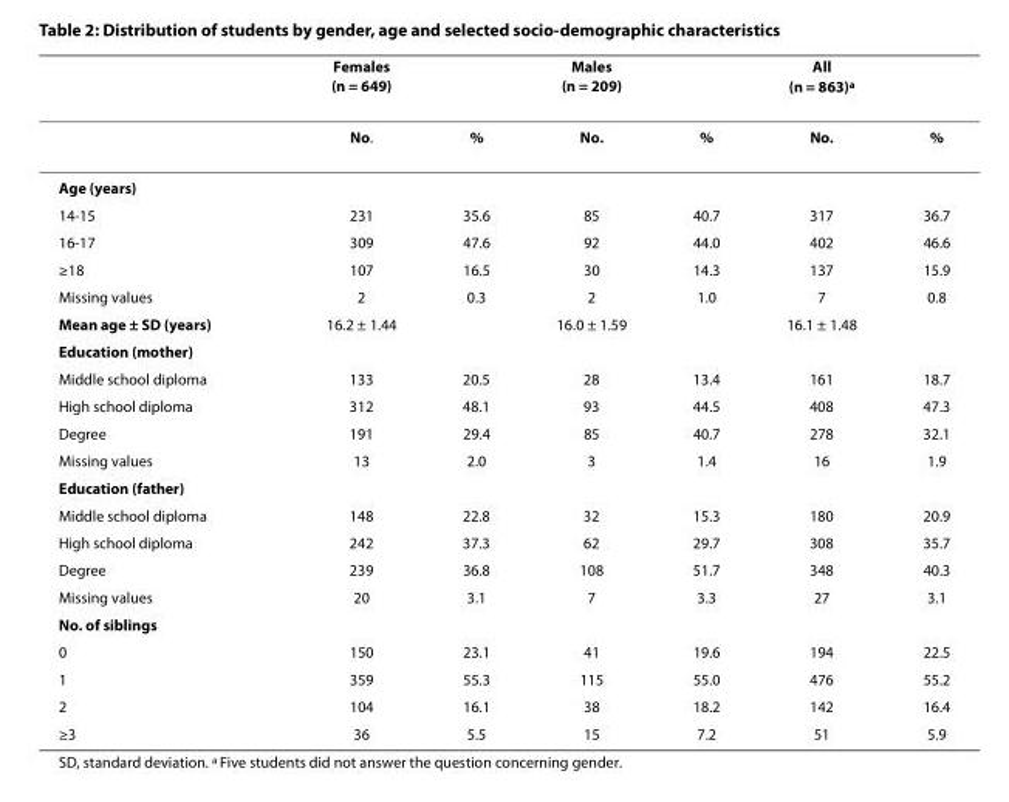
<table><thead><tr><td></td><td>Females (n = 649)</td><td></td><td>Males (n = 209)</td><td></td><td>All (n = 863)<sup>a</sup></td><td></td></tr></thead><tbody><tr><td></td><td>No.</td><td>%</td><td>No.</td><td>%</td><td>No.</td><td>%</td></tr><tr><td colspan="7">Age (years)</td></tr><tr><td>14-15</td><td>231</td><td>35.6</td><td>85</td><td>40.7</td><td>317</td><td>36.7</td></tr><tr><td>16-17</td><td>309</td><td>47.6</td><td>92</td><td>44.0</td><td>402</td><td>46.6</td></tr><tr><td>≥18</td><td>107</td><td>16.5</td><td>30</td><td>14.3</td><td>137</td><td>15.9</td></tr><tr><td>Missing values</td><td>2</td><td>0.3</td><td>2</td><td>1.0</td><td>7</td><td>0.8</td></tr><tr><td>Mean age ± SD (years)</td><td>16.2 ± 1.44</td><td></td><td>16.0 ± 1.59</td><td></td><td>16.1 ± 1.48</td><td></td></tr><tr><td colspan="7">Education (mother)</td></tr><tr><td>Middle school diploma</td><td>133</td><td>20.5</td><td>28</td><td>13.4</td><td>161</td><td>18.7</td></tr><tr><td>High school diploma</td><td>312</td><td>48.1</td><td>93</td><td>44.5</td><td>408</td><td>47.3</td></tr><tr><td>Degree</td><td>191</td><td>29.4</td><td>85</td><td>40.7</td><td>278</td><td>32.1</td></tr><tr><td>Missing values</td><td>13</td><td>2.0</td><td>3</td><td>1.4</td><td>16</td><td>1.9</td></tr><tr><td colspan="7">Education (father)</td></tr><tr><td>Middle school diploma</td><td>148</td><td>22.8</td><td>32</td><td>15.3</td><td>180</td><td>20.9</td></tr><tr><td>High school diploma</td><td>242</td><td>37.3</td><td>62</td><td>29.7</td><td>308</td><td>35.7</td></tr><tr><td>Degree</td><td>239</td><td>36.8</td><td>108</td><td>51.7</td><td>348</td><td>40.3</td></tr><tr><td>Missing values</td><td>20</td><td>3.1</td><td>7</td><td>3.3</td><td>27</td><td>3.1</td></tr><tr><td colspan="7">No. of siblings</td></tr><tr><td>0</td><td>150</td><td>23.1</td><td>41</td><td>19.6</td><td>194</td><td>22.5</td></tr><tr><td>1</td><td>359</td><td>55.3</td><td>115</td><td>55.0</td><td>476</td><td>55.2</td></tr><tr><td>2</td><td>104</td><td>16.1</td><td>38</td><td>18.2</td><td>142</td><td>16.4</td></tr><tr><td>≥3</td><td>36</td><td>5.5</td><td>15</td><td>7.2</td><td>51</td><td>5.9</td></tr></tbody></table>